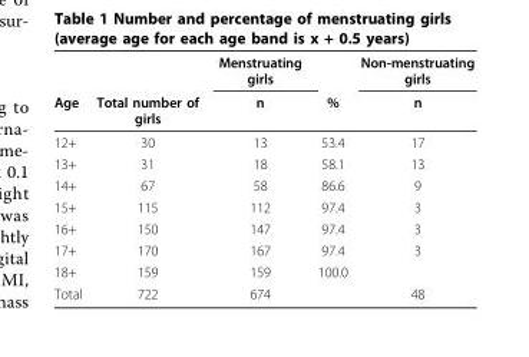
<table><thead><tr><td rowspan="2">Age</td><td rowspan="2">Total number of girls</td><td rowspan="2">Menstruating girls n</td><td rowspan="2">%</td><td rowspan="2">Non-menstruating girls n</td></tr><tr></tr></thead><tbody><tr><td>12+</td><td>30</td><td>13</td><td>53.4</td><td>17</td></tr><tr><td>13+</td><td>31</td><td>18</td><td>58.1</td><td>13</td></tr><tr><td>14+</td><td>67</td><td>58</td><td>86.6</td><td>9</td></tr><tr><td>15+</td><td>115</td><td>112</td><td>97.4</td><td>3</td></tr><tr><td>16+</td><td>150</td><td>147</td><td>97.4</td><td>3</td></tr><tr><td>17+</td><td>170</td><td>167</td><td>97.4</td><td>3</td></tr><tr><td>18+</td><td>159</td><td>159</td><td>100.0</td><td></td></tr><tr><td>Total</td><td>722</td><td>674</td><td></td><td>48</td></tr></tbody></table>